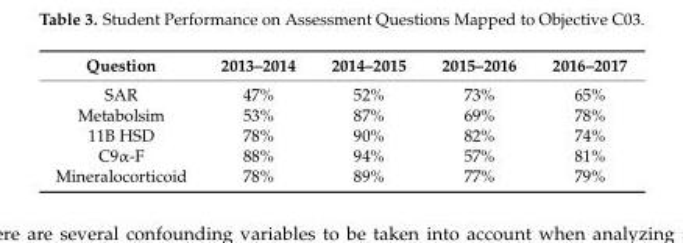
<table><thead><tr><td>Question</td><td>2013–2014</td><td>2014–2015</td><td>2015–2016</td><td>2016–2017</td></tr></thead><tbody><tr><td>SAR</td><td>47%</td><td>52%</td><td>73%</td><td>65%</td></tr><tr><td>Metabolsim</td><td>53%</td><td>87%</td><td>69%</td><td>78%</td></tr><tr><td>11B HSD</td><td>78%</td><td>90%</td><td>82%</td><td>74%</td></tr><tr><td>C9α-F</td><td>88%</td><td>94%</td><td>57%</td><td>81%</td></tr><tr><td>Mineralocorticoid</td><td>78%</td><td>89%</td><td>77%</td><td>79%</td></tr></tbody></table>